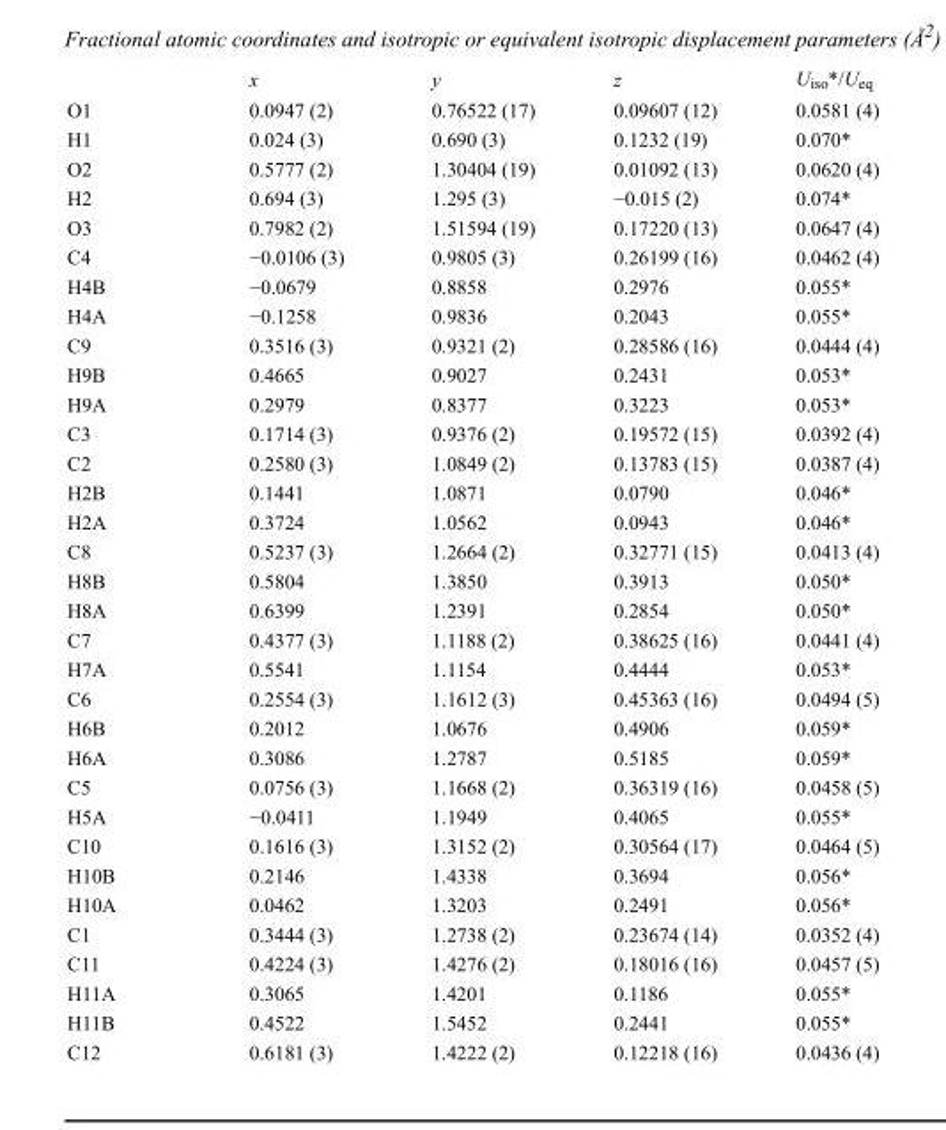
<table><thead><tr><td></td><td>x</td><td>y</td><td>z</td><td>U<sub>iso</sub>*/U<sub>eq</sub></td></tr></thead><tbody><tr><td>O1</td><td>0.0947 (2)</td><td>0.76522 (17)</td><td>0.09607 (12)</td><td>0.0581 (4)</td></tr><tr><td>H1</td><td>0.024 (3)</td><td>0.690 (3)</td><td>0.1232 (19)</td><td>0.070*</td></tr><tr><td>O2</td><td>0.5777 (2)</td><td>1.30404 (19)</td><td>0.01092 (13)</td><td>0.0620 (4)</td></tr><tr><td>H2</td><td>0.694 (3)</td><td>1.295 (3)</td><td>−0.015 (2)</td><td>0.074*</td></tr><tr><td>O3</td><td>0.7982 (2)</td><td>1.51594 (19)</td><td>0.17220 (13)</td><td>0.0647 (4)</td></tr><tr><td>C4</td><td>−0.0106 (3)</td><td>0.9805 (3)</td><td>0.26199 (16)</td><td>0.0462 (4)</td></tr><tr><td>H4B</td><td>−0.0679</td><td>0.8858</td><td>0.2976</td><td>0.055*</td></tr><tr><td>H4A</td><td>−0.1258</td><td>0.9836</td><td>0.2043</td><td>0.055*</td></tr><tr><td>C9</td><td>0.3516 (3)</td><td>0.9321 (2)</td><td>0.28586 (16)</td><td>0.0444 (4)</td></tr><tr><td>H9B</td><td>0.4665</td><td>0.9027</td><td>0.2431</td><td>0.053*</td></tr><tr><td>H9A</td><td>0.2979</td><td>0.8377</td><td>0.3223</td><td>0.053*</td></tr><tr><td>C3</td><td>0.1714 (3)</td><td>0.9376 (2)</td><td>0.19572 (15)</td><td>0.0392 (4)</td></tr><tr><td>C2</td><td>0.2580 (3)</td><td>1.0849 (2)</td><td>0.13783 (15)</td><td>0.0387 (4)</td></tr><tr><td>H2B</td><td>0.1441</td><td>1.0871</td><td>0.0790</td><td>0.046*</td></tr><tr><td>H2A</td><td>0.3724</td><td>1.0562</td><td>0.0943</td><td>0.046*</td></tr><tr><td>C8</td><td>0.5237 (3)</td><td>1.2664 (2)</td><td>0.32771 (15)</td><td>0.0413 (4)</td></tr><tr><td>H8B</td><td>0.5804</td><td>1.3850</td><td>0.3913</td><td>0.050*</td></tr><tr><td>H8A</td><td>0.6399</td><td>1.2391</td><td>0.2854</td><td>0.050*</td></tr><tr><td>C7</td><td>0.4377 (3)</td><td>1.1188 (2)</td><td>0.38625 (16)</td><td>0.0441 (4)</td></tr><tr><td>H7A</td><td>0.5541</td><td>1.1154</td><td>0.4444</td><td>0.053*</td></tr><tr><td>C6</td><td>0.2554 (3)</td><td>1.1612 (3)</td><td>0.45363 (16)</td><td>0.0494 (5)</td></tr><tr><td>H6B</td><td>0.2012</td><td>1.0676</td><td>0.4906</td><td>0.059*</td></tr><tr><td>H6A</td><td>0.3086</td><td>1.2787</td><td>0.5185</td><td>0.059*</td></tr><tr><td>C5</td><td>0.0756 (3)</td><td>1.1668 (2)</td><td>0.36319 (16)</td><td>0.0458 (5)</td></tr><tr><td>H5A</td><td>−0.0411</td><td>1.1949</td><td>0.4065</td><td>0.055*</td></tr><tr><td>C10</td><td>0.1616 (3)</td><td>1.3152 (2)</td><td>0.30564 (17)</td><td>0.0464 (5)</td></tr><tr><td>H10B</td><td>0.2146</td><td>1.4338</td><td>0.3694</td><td>0.056*</td></tr><tr><td>H10A</td><td>0.0462</td><td>1.3203</td><td>0.2491</td><td>0.056*</td></tr><tr><td>C1</td><td>0.3444 (3)</td><td>1.2738 (2)</td><td>0.23674 (14)</td><td>0.0352 (4)</td></tr><tr><td>C11</td><td>0.4224 (3)</td><td>1.4276 (2)</td><td>0.18016 (16)</td><td>0.0457 (5)</td></tr><tr><td>H11A</td><td>0.3065</td><td>1.4201</td><td>0.1186</td><td>0.055*</td></tr><tr><td>H11B</td><td>0.4522</td><td>1.5452</td><td>0.2441</td><td>0.055*</td></tr><tr><td>C12</td><td>0.6181 (3)</td><td>1.4222 (2)</td><td>0.12218 (16)</td><td>0.0436 (4)</td></tr></tbody></table>